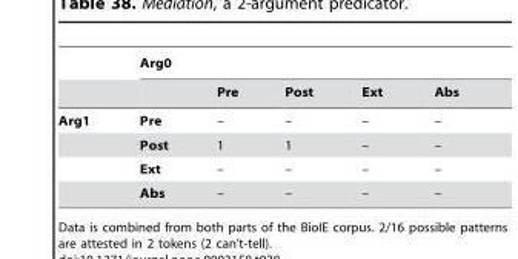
<table><thead><tr><td rowspan="2"></td><td colspan="5">Arg0</td></tr><tr><td></td><td>Pre</td><td>Post</td><td>Ext</td><td>Abs</td></tr></thead><tbody><tr><td rowspan="4">Arg1</td><td>Pre</td><td>–</td><td>–</td><td>–</td><td>–</td></tr><tr><td>Post</td><td>1</td><td>1</td><td>–</td><td>–</td></tr><tr><td>Ext</td><td>–</td><td>–</td><td>–</td><td>–</td></tr><tr><td>Abs</td><td>–</td><td>–</td><td>–</td><td>–</td></tr></tbody></table>